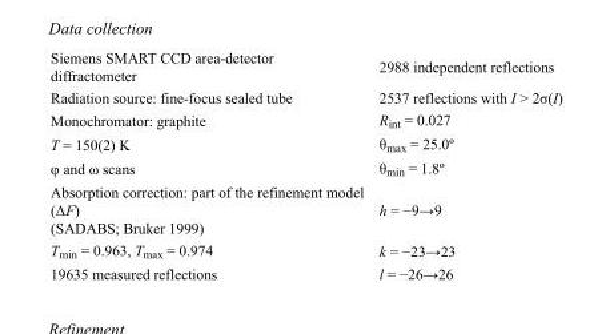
<table><tbody><tr><td>Siemens SMART CCD area-detector diffractometer</td><td>2988 independent reflections</td></tr><tr><td>Radiation source: fine-focus sealed tube</td><td>2537 reflections with I &gt; 2σ(I)</td></tr><tr><td>Monochromator: graphite</td><td>R<sub>int</sub> = 0.027</td></tr><tr><td>T = 150(2) K</td><td>θ<sub>max</sub> = 25.0º</td></tr><tr><td>φ and ω scans</td><td>θ<sub>min</sub> = 1.8º</td></tr><tr><td>Absorption correction: part of the refinement model (ΔF) (SADABS; Bruker 1999)</td><td>h = −9→9</td></tr><tr><td>T<sub>min</sub> = 0.963, T<sub>max</sub> = 0.974</td><td>k = −23→23</td></tr><tr><td>19635 measured reflections</td><td>l = −26→26</td></tr></tbody></table>